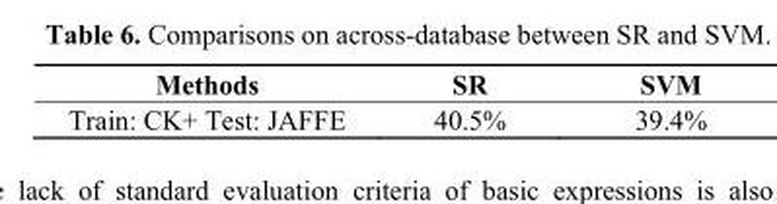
<table><thead><tr><td>Methods</td><td>SR</td><td>SVM</td></tr></thead><tbody><tr><td>Train: CK+ Test: JAFFE</td><td>40.5%</td><td>39.4%</td></tr></tbody></table>